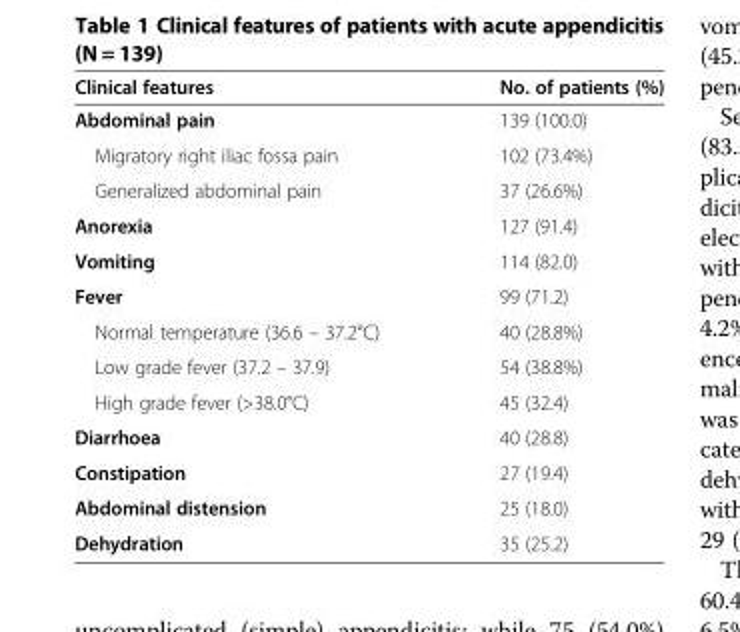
<table><thead><tr><td>Clinical features</td><td>No. of patients (%)</td></tr></thead><tbody><tr><td>Abdominal pain</td><td>139 (100.0)</td></tr><tr><td>Migratory right iliac fossa pain</td><td>102 (73.4%)</td></tr><tr><td>Generalized abdominal pain</td><td>37 (26.6%)</td></tr><tr><td>Anorexia</td><td>127 (91.4)</td></tr><tr><td>Vomiting</td><td>114 (82.0)</td></tr><tr><td>Fever</td><td>99 (71.2)</td></tr><tr><td>Normal temperature (36.6 – 37.2°C)</td><td>40 (28.8%)</td></tr><tr><td>Low grade fever (37.2 – 37.9)</td><td>54 (38.8%)</td></tr><tr><td>High grade fever (&gt;38.0°C)</td><td>45 (32.4)</td></tr><tr><td>Diarrhoea</td><td>40 (28.8)</td></tr><tr><td>Constipation</td><td>27 (19.4)</td></tr><tr><td>Abdominal distension</td><td>25 (18.0)</td></tr><tr><td>Dehydration</td><td>35 (25.2)</td></tr></tbody></table>